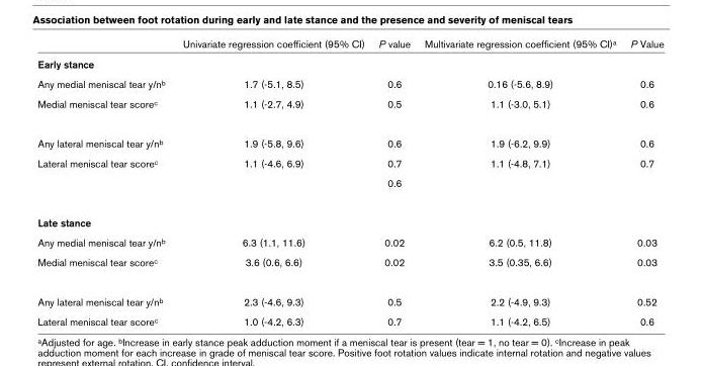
<table><thead><tr><td></td><td>Univariate regression coefficient (95% CI)</td><td>P value</td><td>Multivariate regression coefficient (95% CI)<sup>a</sup></td><td>P Value</td></tr></thead><tbody><tr><td colspan="5">Early stance</td></tr><tr><td>Any medial meniscal tear y/n<sup>b</sup></td><td>1.7 (-5.1, 8.5)</td><td>0.6</td><td>0.16 (-5.6, 8.9)</td><td>0.6</td></tr><tr><td>Medial meniscal tear score<sup>c</sup></td><td>1.1 (-2.7, 4.9)</td><td>0.5</td><td>1.1 (-3.0, 5.1)</td><td>0.6</td></tr><tr><td>Any lateral meniscal tear y/n<sup>b</sup></td><td>1.9 (-5.8, 9.6)</td><td>0.6</td><td>1.9 (-6.2, 9.9)</td><td>0.6</td></tr><tr><td rowspan="2">Lateral meniscal tear score<sup>c</sup></td><td>1.1 (-4.6, 6.9)</td><td>0.7</td><td>1.1 (-4.8, 7.1)</td><td>0.7</td></tr><tr><td></td><td>0.6</td><td></td><td></td></tr><tr><td colspan="5">Late stance</td></tr><tr><td>Any medial meniscal tear y/n<sup>b</sup></td><td>6.3 (1.1, 11.6)</td><td>0.02</td><td>6.2 (0.5, 11.8)</td><td>0.03</td></tr><tr><td>Medial meniscal tear score<sup>c</sup></td><td>3.6 (0.6, 6.6)</td><td>0.02</td><td>3.5 (0.35, 6.6)</td><td>0.03</td></tr><tr><td>Any lateral meniscal tear y/n<sup>b</sup></td><td>2.3 (-4.6, 9.3)</td><td>0.5</td><td>2.2 (-4.9, 9.3)</td><td>0.52</td></tr><tr><td>Lateral meniscal tear score<sup>c</sup></td><td>1.0 (-4.2, 6.3)</td><td>0.7</td><td>1.1 (-4.2, 6.5)</td><td>0.6</td></tr></tbody></table>